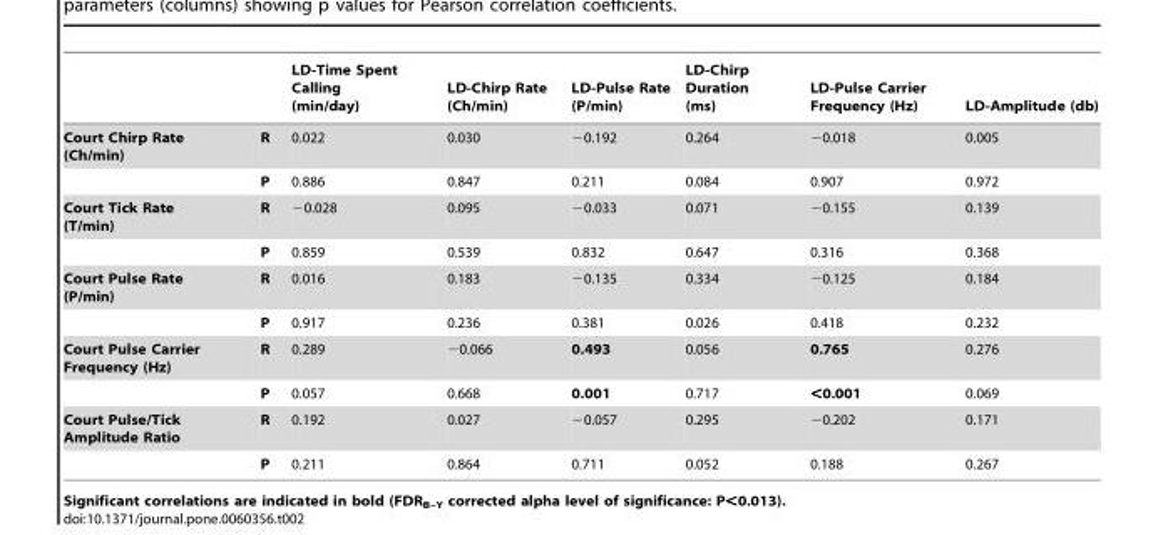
<table><thead><tr><td></td><td></td><td>LD-Time Spent Calling (min/day)</td><td>LD-Chirp Rate (Ch/min)</td><td>LD-Pulse Rate (P/min)</td><td>LD-Chirp Duration (ms)</td><td>LD-Pulse Carrier Frequency (Hz)</td><td>LD-Amplitude (db)</td></tr></thead><tbody><tr><td rowspan="2">Court Chirp Rate (Ch/min)</td><td>R</td><td>0.022</td><td>0.030</td><td>−0.192</td><td>0.264</td><td>−0.018</td><td>0.005</td></tr><tr><td>P</td><td>0.886</td><td>0.847</td><td>0.211</td><td>0.084</td><td>0.907</td><td>0.972</td></tr><tr><td rowspan="2">Court Tick Rate (T/min)</td><td>R</td><td>−0.028</td><td>0.095</td><td>−0.033</td><td>0.071</td><td>−0.155</td><td>0.139</td></tr><tr><td>P</td><td>0.859</td><td>0.539</td><td>0.832</td><td>0.647</td><td>0.316</td><td>0.368</td></tr><tr><td rowspan="2">Court Pulse Rate (P/min)</td><td>R</td><td>0.016</td><td>0.183</td><td>−0.135</td><td>0.334</td><td>−0.125</td><td>0.184</td></tr><tr><td>P</td><td>0.917</td><td>0.236</td><td>0.381</td><td>0.026</td><td>0.418</td><td>0.232</td></tr><tr><td rowspan="2">Court Pulse Carrier Frequency (Hz)</td><td>R</td><td>0.289</td><td>−0.066</td><td>0.493</td><td>0.056</td><td>0.765</td><td>0.276</td></tr><tr><td>P</td><td>0.057</td><td>0.668</td><td>0.001</td><td>0.717</td><td>&lt;0.001</td><td>0.069</td></tr><tr><td rowspan="2">Court Pulse/Tick Amplitude Ratio</td><td>R</td><td>0.192</td><td>0.027</td><td>−0.057</td><td>0.295</td><td>−0.202</td><td>0.171</td></tr><tr><td>P</td><td>0.211</td><td>0.864</td><td>0.711</td><td>0.052</td><td>0.188</td><td>0.267</td></tr></tbody></table>